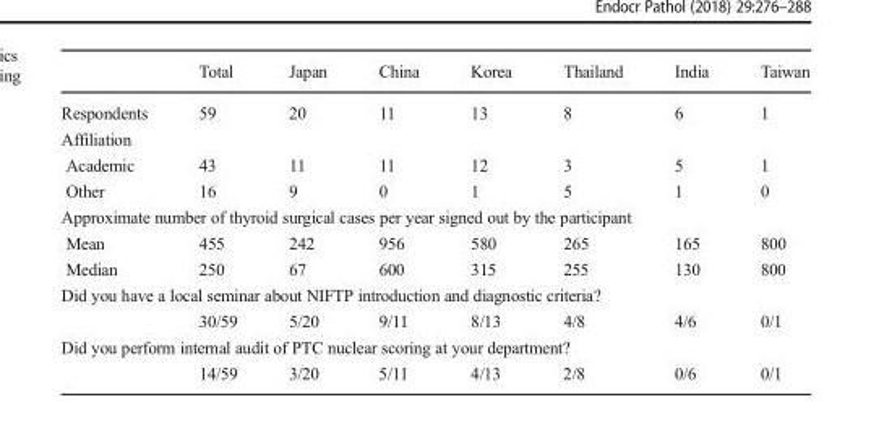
<table><thead><tr><td></td><td>Total</td><td>Japan</td><td>China</td><td>Korea</td><td>Thailand</td><td>India</td><td>Taiwan</td></tr></thead><tbody><tr><td>Respondents</td><td>59</td><td>20</td><td>11</td><td>13</td><td>8</td><td>6</td><td>1</td></tr><tr><td colspan="8">Affiliation</td></tr><tr><td>Academic</td><td>43</td><td>11</td><td>11</td><td>12</td><td>3</td><td>5</td><td>1</td></tr><tr><td>Other</td><td>16</td><td>9</td><td>0</td><td>1</td><td>5</td><td>1</td><td>0</td></tr><tr><td colspan="8">Approximate number of thyroid surgical cases per year signed out by the participant</td></tr><tr><td>Mean</td><td>455</td><td>242</td><td>956</td><td>580</td><td>265</td><td>165</td><td>800</td></tr><tr><td>Median</td><td>250</td><td>67</td><td>600</td><td>315</td><td>255</td><td>130</td><td>800</td></tr><tr><td colspan="8">Did you have a local seminar about NIFTP introduction and diagnostic criteria?</td></tr><tr><td></td><td>30/59</td><td>5/20</td><td>9/11</td><td>8/13</td><td>4/8</td><td>4/6</td><td>0/1</td></tr><tr><td colspan="8">Did you perform internal audit of PTC nuclear scoring at your department?</td></tr><tr><td></td><td>14/59</td><td>3/20</td><td>5/11</td><td>4/13</td><td>2/8</td><td>0/6</td><td>0/1</td></tr></tbody></table>